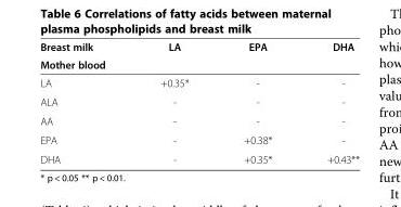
<table><thead><tr><td rowspan="2">Breast milk Mother blood</td><td rowspan="2">LA</td><td rowspan="2">EPA</td><td rowspan="2">DHA</td></tr><tr></tr></thead><tbody><tr><td>LA</td><td>+0.35*</td><td>-</td><td>-</td></tr><tr><td>ALA</td><td>-</td><td>-</td><td>-</td></tr><tr><td>AA</td><td>-</td><td>-</td><td>-</td></tr><tr><td>EPA</td><td>-</td><td>+0.38*</td><td>-</td></tr><tr><td>DHA</td><td>-</td><td>+0.35*</td><td>+0.43**</td></tr></tbody></table>